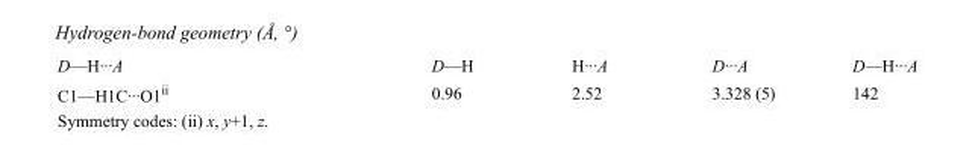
<table><tbody><tr><td>D—H···A</td><td>D—H</td><td>H···A</td><td>D···A</td><td>D—H···A</td></tr><tr><td>C1—H1C···O1<sup>ii</sup></td><td>0.96</td><td>2.52</td><td>3.328 (5)</td><td>142</td></tr></tbody></table>